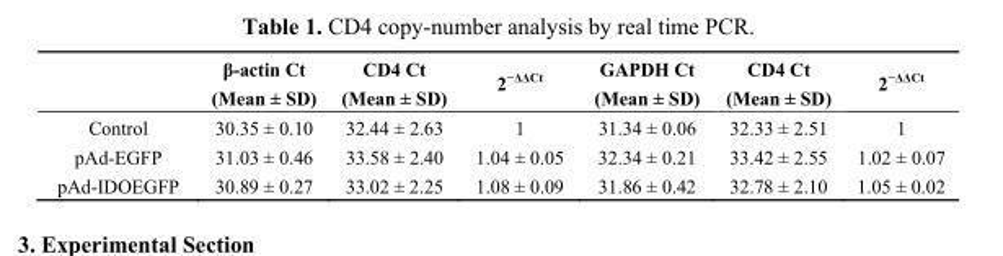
<table><thead><tr><td></td><td>β-actin Ct (Mean ± SD)</td><td>CD4 Ct (Mean ± SD)</td><td>2<sup>−ΔΔCt</sup></td><td>GAPDH Ct (Mean ± SD)</td><td>CD4 Ct (Mean ± SD)</td><td>2<sup>−ΔΔCt</sup></td></tr></thead><tbody><tr><td>Control</td><td>30.35 ± 0.10</td><td>32.44 ± 2.63</td><td>1</td><td>31.34 ± 0.06</td><td>32.33 ± 2.51</td><td>1</td></tr><tr><td>pAd-EGFP</td><td>31.03 ± 0.46</td><td>33.58 ± 2.40</td><td>1.04 ± 0.05</td><td>32.34 ± 0.21</td><td>33.42 ± 2.55</td><td>1.02 ± 0.07</td></tr><tr><td>pAd-IDOEGFP</td><td>30.89 ± 0.27</td><td>33.02 ± 2.25</td><td>1.08 ± 0.09</td><td>31.86 ± 0.42</td><td>32.78 ± 2.10</td><td>1.05 ± 0.02</td></tr></tbody></table>